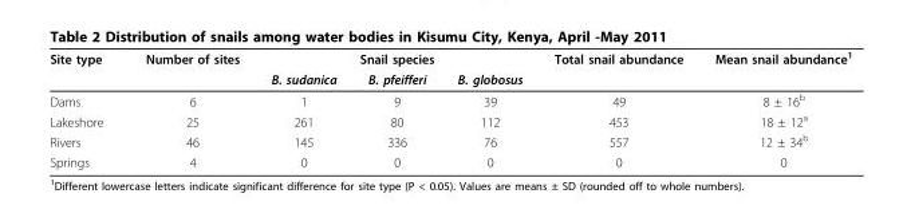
<table><thead><tr><td rowspan="2">Site type</td><td rowspan="2">Number of sites</td><td colspan="3">Snail species</td><td rowspan="2">Total snail abundance</td><td rowspan="2">Mean snail abundance<sup>1</sup></td></tr><tr><td>B. sudanica</td><td>B. pfeifferi</td><td>B. globosus</td></tr></thead><tbody><tr><td>Dams</td><td>6</td><td>1</td><td>9</td><td>39</td><td>49</td><td>8 ± 16<sup>b</sup></td></tr><tr><td>Lakeshore</td><td>25</td><td>261</td><td>80</td><td>112</td><td>453</td><td>18 ± 12<sup>a</sup></td></tr><tr><td>Rivers</td><td>46</td><td>145</td><td>336</td><td>76</td><td>557</td><td>12 ± 34<sup>b</sup></td></tr><tr><td>Springs</td><td>4</td><td>0</td><td>0</td><td>0</td><td>0</td><td>0</td></tr></tbody></table>